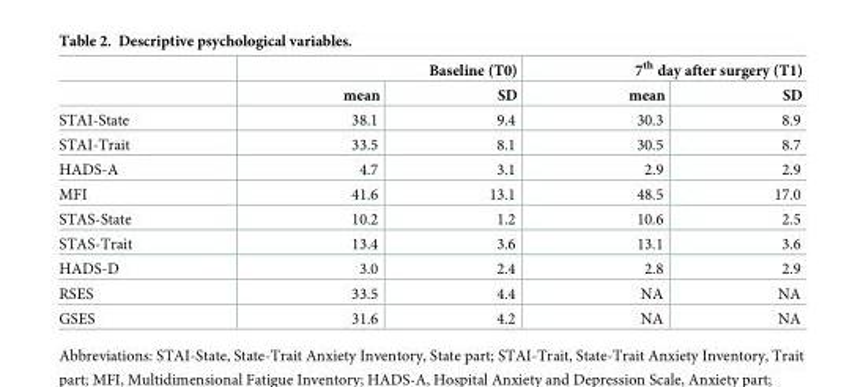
<table><thead><tr><td rowspan="2"></td><td colspan="2">Baseline (T0)</td><td colspan="2">7<sup>th</sup> day after surgery (T1)</td></tr><tr><td>mean</td><td>SD</td><td>mean</td><td>SD</td></tr></thead><tbody><tr><td>STAI-State</td><td>38.1</td><td>9.4</td><td>30.3</td><td>8.9</td></tr><tr><td>STAI-Trait</td><td>33.5</td><td>8.1</td><td>30.5</td><td>8.7</td></tr><tr><td>HADS-A</td><td>4.7</td><td>3.1</td><td>2.9</td><td>2.9</td></tr><tr><td>MFI</td><td>41.6</td><td>13.1</td><td>48.5</td><td>17.0</td></tr><tr><td>STAS-State</td><td>10.2</td><td>1.2</td><td>10.6</td><td>2.5</td></tr><tr><td>STAS-Trait</td><td>13.4</td><td>3.6</td><td>13.1</td><td>3.6</td></tr><tr><td>HADS-D</td><td>3.0</td><td>2.4</td><td>2.8</td><td>2.9</td></tr><tr><td>RSES</td><td>33.5</td><td>4.4</td><td>NA</td><td>NA</td></tr><tr><td>GSES</td><td>31.6</td><td>4.2</td><td>NA</td><td>NA</td></tr></tbody></table>